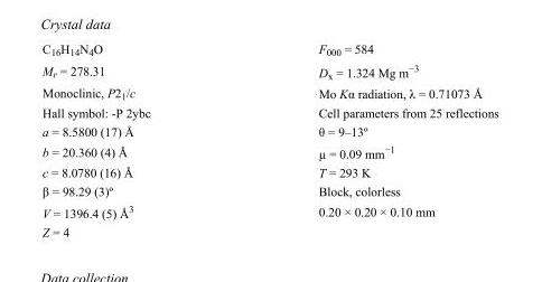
<table><tbody><tr><td>C<sub>16</sub>H<sub>14</sub>N<sub>4</sub>O</td><td>F000 = 584</td></tr><tr><td>M<sub>r</sub> = 278.31</td><td>D<sub>x</sub> = 1.324 Mg m<sup>−3</sup></td></tr><tr><td>Monoclinic, P2<sub>1</sub>/c</td><td>Mo Kα radiation, λ = 0.71073 Å</td></tr><tr><td>Hall symbol: -P 2ybc</td><td>Cell parameters from 25 reflections</td></tr><tr><td>a = 8.5800 (17) Å</td><td>θ = 9–13º</td></tr><tr><td>b = 20.360 (4) Å</td><td>µ = 0.09 mm<sup>−1</sup></td></tr><tr><td>c = 8.0780 (16) Å</td><td>T = 293 K</td></tr><tr><td>β = 98.29 (3)º</td><td>Block, colorless</td></tr><tr><td>V = 1396.4 (5) Å<sup>3</sup></td><td>0.20 × 0.20 × 0.10 mm</td></tr><tr><td>Z = 4</td><td></td></tr></tbody></table>